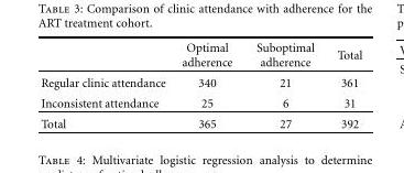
<table><thead><tr><td></td><td>Optimal adherence</td><td>Suboptimal adherence</td><td>Total</td></tr></thead><tbody><tr><td>Regular clinic attendance</td><td>340</td><td>21</td><td>361</td></tr><tr><td>Inconsistent attendance</td><td>25</td><td>6</td><td>31</td></tr><tr><td>Total</td><td>365</td><td>27</td><td>392</td></tr></tbody></table>